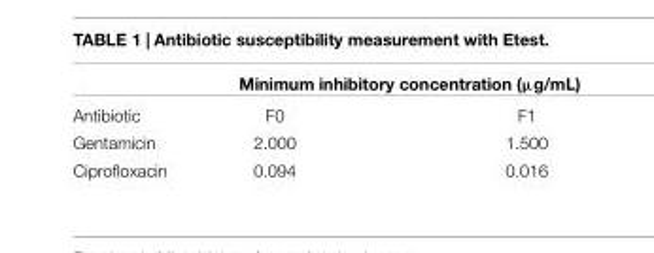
<table><thead><tr><td rowspan="2">Antibiotic</td><td colspan="2">Minimum inhibitory concentration (µg/mL)</td></tr><tr><td>F0</td><td>F1</td></tr></thead><tbody><tr><td>Gentamicin</td><td>2.000</td><td>1.500</td></tr><tr><td>Ciprofloxacin</td><td>0.094</td><td>0.016</td></tr></tbody></table>